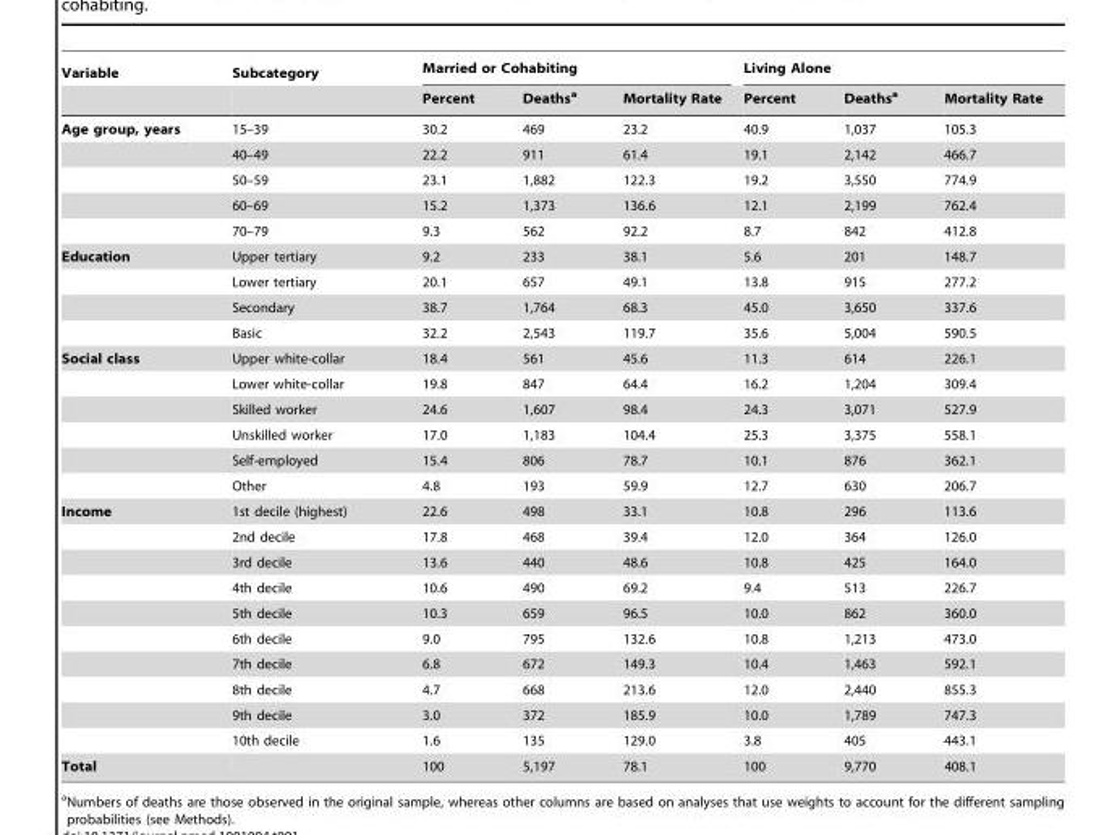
<table><thead><tr><td rowspan="2">Variable</td><td rowspan="2">Subcategory</td><td colspan="3">Married or Cohabiting</td><td colspan="3">Living Alone</td></tr><tr><td>Percent</td><td>Deaths<sup>a</sup></td><td>Mortality Rate</td><td>Percent</td><td>Deaths<sup>a</sup></td><td>Mortality Rate</td></tr></thead><tbody><tr><td rowspan="5">Age group, years</td><td>15–39</td><td>30.2</td><td>469</td><td>23.2</td><td>40.9</td><td>1,037</td><td>105.3</td></tr><tr><td>40–49</td><td>22.2</td><td>911</td><td>61.4</td><td>19.1</td><td>2,142</td><td>466.7</td></tr><tr><td>50–59</td><td>23.1</td><td>1,882</td><td>122.3</td><td>19.2</td><td>3,550</td><td>774.9</td></tr><tr><td>60–69</td><td>15.2</td><td>1,373</td><td>136.6</td><td>12.1</td><td>2,199</td><td>762.4</td></tr><tr><td>70–79</td><td>9.3</td><td>562</td><td>92.2</td><td>8.7</td><td>842</td><td>412.8</td></tr><tr><td rowspan="4">Education</td><td>Upper tertiary</td><td>9.2</td><td>233</td><td>38.1</td><td>5.6</td><td>201</td><td>148.7</td></tr><tr><td>Lower tertiary</td><td>20.1</td><td>657</td><td>49.1</td><td>13.8</td><td>915</td><td>277.2</td></tr><tr><td>Secondary</td><td>38.7</td><td>1,764</td><td>68.3</td><td>45.0</td><td>3,650</td><td>337.6</td></tr><tr><td>Basic</td><td>32.2</td><td>2,543</td><td>119.7</td><td>35.6</td><td>5,004</td><td>590.5</td></tr><tr><td rowspan="6">Social class</td><td>Upper white-collar</td><td>18.4</td><td>561</td><td>45.6</td><td>11.3</td><td>614</td><td>226.1</td></tr><tr><td>Lower white-collar</td><td>19.8</td><td>847</td><td>64.4</td><td>16.2</td><td>1,204</td><td>309.4</td></tr><tr><td>Skilled worker</td><td>24.6</td><td>1,607</td><td>98.4</td><td>24.3</td><td>3,071</td><td>527.9</td></tr><tr><td>Unskilled worker</td><td>17.0</td><td>1,183</td><td>104.4</td><td>25.3</td><td>3,375</td><td>558.1</td></tr><tr><td>Self-employed</td><td>15.4</td><td>806</td><td>78.7</td><td>10.1</td><td>876</td><td>362.1</td></tr><tr><td>Other</td><td>4.8</td><td>193</td><td>59.9</td><td>12.7</td><td>630</td><td>206.7</td></tr><tr><td rowspan="10">Income</td><td>1st decile (highest)</td><td>22.6</td><td>498</td><td>33.1</td><td>10.8</td><td>296</td><td>113.6</td></tr><tr><td>2nd decile</td><td>17.8</td><td>468</td><td>39.4</td><td>12.0</td><td>364</td><td>126.0</td></tr><tr><td>3rd decile</td><td>13.6</td><td>440</td><td>48.6</td><td>10.8</td><td>425</td><td>164.0</td></tr><tr><td>4th decile</td><td>10.6</td><td>490</td><td>69.2</td><td>9.4</td><td>513</td><td>226.7</td></tr><tr><td>5th decile</td><td>10.3</td><td>659</td><td>96.5</td><td>10.0</td><td>862</td><td>360.0</td></tr><tr><td>6th decile</td><td>9.0</td><td>795</td><td>132.6</td><td>10.8</td><td>1,213</td><td>473.0</td></tr><tr><td>7th decile</td><td>6.8</td><td>672</td><td>149.3</td><td>10.4</td><td>1,463</td><td>592.1</td></tr><tr><td>8th decile</td><td>4.7</td><td>668</td><td>213.6</td><td>12.0</td><td>2,440</td><td>855.3</td></tr><tr><td>9th decile</td><td>3.0</td><td>372</td><td>185.9</td><td>10.0</td><td>1,789</td><td>747.3</td></tr><tr><td>10th decile</td><td>1.6</td><td>135</td><td>129.0</td><td>3.8</td><td>405</td><td>443.1</td></tr><tr><td>Total</td><td></td><td>100</td><td>5,197</td><td>78.1</td><td>100</td><td>9,770</td><td>408.1</td></tr></tbody></table>